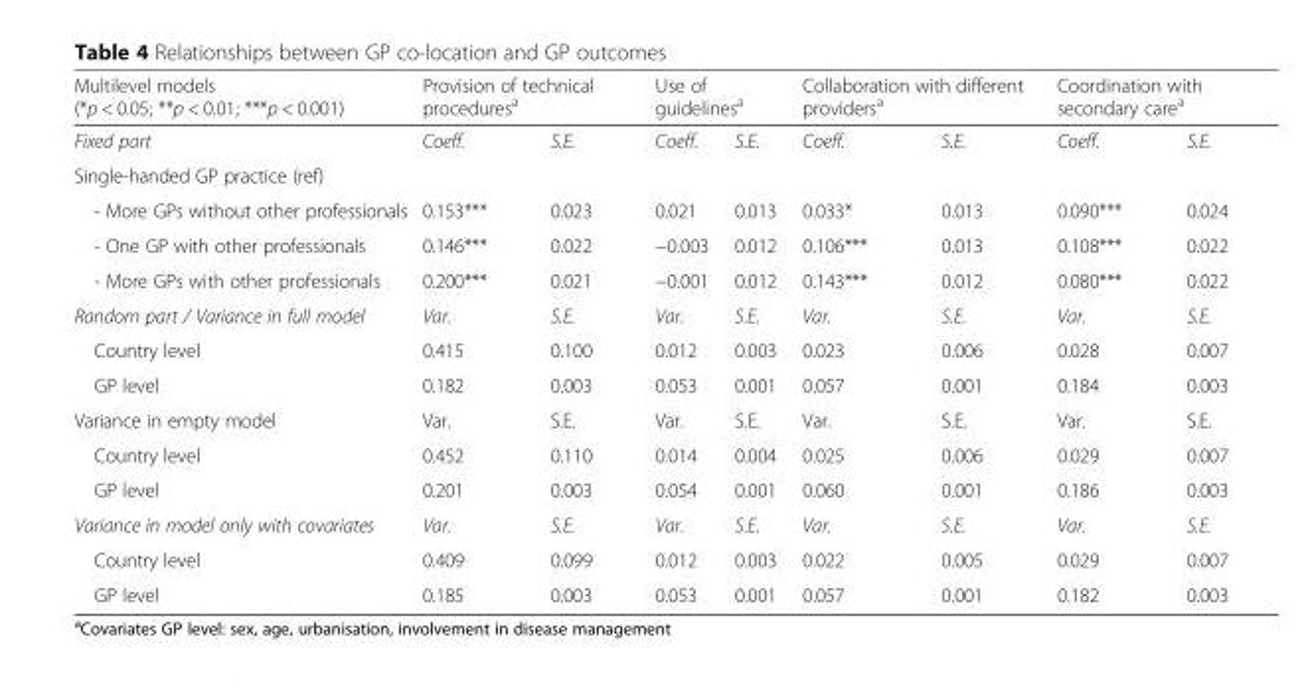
<table><thead><tr><td rowspan="2">Multilevel models (*p &lt; 0.05; **p &lt; 0.01; ***p &lt; 0.001) Fixed part</td><td colspan="2">Provision of technical procedures<sup>a</sup></td><td colspan="2">Use of guidelines<sup>a</sup></td><td colspan="2">Collaboration with different providers<sup>a</sup></td><td colspan="2">Coordination with secondary care<sup>a</sup></td></tr><tr><td>Coeff.</td><td>S.E.</td><td>Coeff.</td><td>S.E.</td><td>Coeff.</td><td>S.E.</td><td>Coeff.</td><td>S.E.</td></tr></thead><tbody><tr><td colspan="9">Single-handed GP practice (ref)</td></tr><tr><td>- More GPs without other professionals</td><td>0.153***</td><td>0.023</td><td>0.021</td><td>0.013</td><td>0.033*</td><td>0.013</td><td>0.090***</td><td>0.024</td></tr><tr><td>- One GP with other professionals</td><td>0.146***</td><td>0.022</td><td>−0.003</td><td>0.012</td><td>0.106***</td><td>0.013</td><td>0.108***</td><td>0.022</td></tr><tr><td>- More GPs with other professionals</td><td>0.200***</td><td>0.021</td><td>−0.001</td><td>0.012</td><td>0.143***</td><td>0.012</td><td>0.080***</td><td>0.022</td></tr><tr><td>Random part / Variance in full model</td><td>Var.</td><td>S.E.</td><td>Var.</td><td>S.E.</td><td>Var.</td><td>S.E.</td><td>Var.</td><td>S.E.</td></tr><tr><td>Country level</td><td>0.415</td><td>0.100</td><td>0.012</td><td>0.003</td><td>0.023</td><td>0.006</td><td>0.028</td><td>0.007</td></tr><tr><td>GP level</td><td>0.182</td><td>0.003</td><td>0.053</td><td>0.001</td><td>0.057</td><td>0.001</td><td>0.184</td><td>0.003</td></tr><tr><td>Variance in empty model</td><td>Var.</td><td>S.E.</td><td>Var.</td><td>S.E.</td><td>Var.</td><td>S.E.</td><td>Var.</td><td>S.E.</td></tr><tr><td>Country level</td><td>0.452</td><td>0.110</td><td>0.014</td><td>0.004</td><td>0.025</td><td>0.006</td><td>0.029</td><td>0.007</td></tr><tr><td>GP level</td><td>0.201</td><td>0.003</td><td>0.054</td><td>0.001</td><td>0.060</td><td>0.001</td><td>0.186</td><td>0.003</td></tr><tr><td>Variance in model only with covariates</td><td>Var.</td><td>S.E.</td><td>Var.</td><td>S.E.</td><td>Var.</td><td>S.E.</td><td>Var.</td><td>S.E.</td></tr><tr><td>Country level</td><td>0.409</td><td>0.099</td><td>0.012</td><td>0.003</td><td>0.022</td><td>0.005</td><td>0.029</td><td>0.007</td></tr><tr><td>GP level</td><td>0.185</td><td>0.003</td><td>0.053</td><td>0.001</td><td>0.057</td><td>0.001</td><td>0.182</td><td>0.003</td></tr></tbody></table>